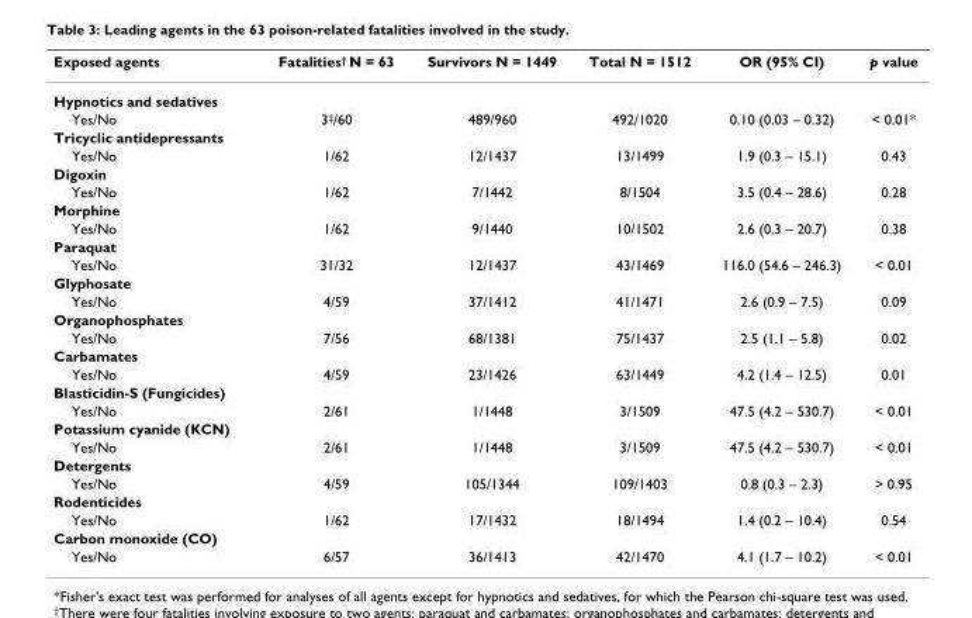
<table><thead><tr><td>Exposed agents</td><td>Fatalities† N = 63</td><td>Survivors N = 1449</td><td>Total N = 1512</td><td>OR (95% CI)</td><td>p value</td></tr></thead><tbody><tr><td colspan="6">Hypnotics and sedatives</td></tr><tr><td>Yes/No</td><td>3<sup>‡</sup>/60</td><td>489/960</td><td>492/1020</td><td>0.10 (0.03 – 0.32)</td><td>&lt; 0.01*</td></tr><tr><td colspan="6">Tricyclic antidepressants</td></tr><tr><td>Yes/No</td><td>1/62</td><td>12/1437</td><td>13/1499</td><td>1.9 (0.3 – 15.1)</td><td>0.43</td></tr><tr><td colspan="6">Digoxin</td></tr><tr><td>Yes/No</td><td>1/62</td><td>7/1442</td><td>8/1504</td><td>3.5 (0.4 – 28.6)</td><td>0.28</td></tr><tr><td colspan="6">Morphine</td></tr><tr><td>Yes/No</td><td>1/62</td><td>9/1440</td><td>10/1502</td><td>2.6 (0.3 – 20.7)</td><td>0.38</td></tr><tr><td colspan="6">Paraquat</td></tr><tr><td>Yes/No</td><td>31/32</td><td>12/1437</td><td>43/1469</td><td>116.0 (54.6 – 246.3)</td><td>&lt; 0.01</td></tr><tr><td colspan="6">Glyphosate</td></tr><tr><td>Yes/No</td><td>4/59</td><td>37/1412</td><td>41/1471</td><td>2.6 (0.9 – 7.5)</td><td>0.09</td></tr><tr><td colspan="6">Organophosphates</td></tr><tr><td>Yes/No</td><td>7/56</td><td>68/1381</td><td>75/1437</td><td>2.5 (1.1 – 5.8)</td><td>0.02</td></tr><tr><td colspan="6">Carbamates</td></tr><tr><td>Yes/No</td><td>4/59</td><td>23/1426</td><td>63/1449</td><td>4.2 (1.4 – 12.5)</td><td>0.01</td></tr><tr><td colspan="6">Blasticidin-S (Fungicides)</td></tr><tr><td>Yes/No</td><td>2/61</td><td>1/1448</td><td>3/1509</td><td>47.5 (4.2 – 530.7)</td><td>&lt; 0.01</td></tr><tr><td colspan="6">Potassium cyanide (KCN)</td></tr><tr><td>Yes/No</td><td>2/61</td><td>1/1448</td><td>3/1509</td><td>47.5 (4.2 – 530.7)</td><td>&lt; 0.01</td></tr><tr><td colspan="6">Detergents</td></tr><tr><td>Yes/No</td><td>4/59</td><td>105/1344</td><td>109/1403</td><td>0.8 (0.3 – 2.3)</td><td>&gt; 0.95</td></tr><tr><td colspan="6">Rodenticides</td></tr><tr><td>Yes/No</td><td>1/62</td><td>17/1432</td><td>18/1494</td><td>1.4 (0.2 – 10.4)</td><td>0.54</td></tr><tr><td colspan="6">Carbon monoxide (CO)</td></tr><tr><td>Yes/No</td><td>6/57</td><td>36/1413</td><td>42/1470</td><td>4.1 (1.7 – 10.2)</td><td>&lt; 0.01</td></tr></tbody></table>